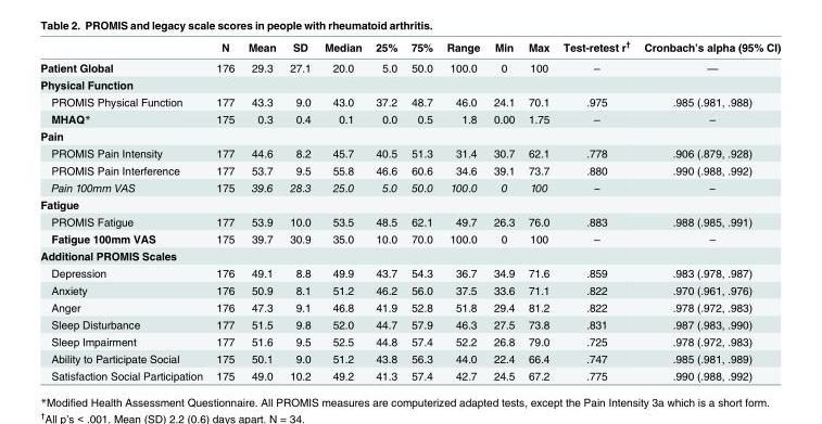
<table><thead><tr><td></td><td>N</td><td>Mean</td><td>SD</td><td>Median</td><td>25%</td><td>75%</td><td>Range</td><td>Min</td><td>Max</td><td>Test-retest r<sup>†</sup></td><td>Cronbach’s alpha (95% CI)</td></tr></thead><tbody><tr><td>Patient Global</td><td>176</td><td>29.3</td><td>27.1</td><td>20.0</td><td>5.0</td><td>50.0</td><td>100.0</td><td>0</td><td>100</td><td>–</td><td>—</td></tr><tr><td colspan="12">Physical Function</td></tr><tr><td>PROMIS Physical Function</td><td>177</td><td>43.3</td><td>9.0</td><td>43.0</td><td>37.2</td><td>48.7</td><td>46.0</td><td>24.1</td><td>70.1</td><td>.975</td><td>.985 (.981, .988)</td></tr><tr><td>MHAQ*</td><td>175</td><td>0.3</td><td>0.4</td><td>0.1</td><td>0.0</td><td>0.5</td><td>1.8</td><td>0.00</td><td>1.75</td><td>–</td><td>–</td></tr><tr><td colspan="12">Pain</td></tr><tr><td>PROMIS Pain Intensity</td><td>177</td><td>44.6</td><td>8.2</td><td>45.7</td><td>40.5</td><td>51.3</td><td>31.4</td><td>30.7</td><td>62.1</td><td>.778</td><td>.906 (.879, .928)</td></tr><tr><td>PROMIS Pain Interference</td><td>177</td><td>53.7</td><td>9.5</td><td>55.8</td><td>46.6</td><td>60.6</td><td>34.6</td><td>39.1</td><td>73.7</td><td>.880</td><td>.990 (.988, .992)</td></tr><tr><td>Pain 100mm VAS</td><td>175</td><td>39.6</td><td>28.3</td><td>25.0</td><td>5.0</td><td>50.0</td><td>100.0</td><td>0</td><td>100</td><td>–</td><td>–</td></tr><tr><td colspan="12">Fatigue</td></tr><tr><td>PROMIS Fatigue</td><td>177</td><td>53.9</td><td>10.0</td><td>53.5</td><td>48.5</td><td>62.1</td><td>49.7</td><td>26.3</td><td>76.0</td><td>.883</td><td>.988 (.985, .991)</td></tr><tr><td>Fatigue 100mm VAS</td><td>175</td><td>39.7</td><td>30.9</td><td>35.0</td><td>10.0</td><td>70.0</td><td>100.0</td><td>0</td><td>100</td><td>–</td><td>–</td></tr><tr><td colspan="12">Additional PROMIS Scales</td></tr><tr><td>Depression</td><td>176</td><td>49.1</td><td>8.8</td><td>49.9</td><td>43.7</td><td>54.3</td><td>36.7</td><td>34.9</td><td>71.6</td><td>.859</td><td>.983 (.978, .987)</td></tr><tr><td>Anxiety</td><td>176</td><td>50.9</td><td>8.1</td><td>51.2</td><td>46.2</td><td>56.0</td><td>37.5</td><td>33.6</td><td>71.1</td><td>.822</td><td>.970 (.961, .976)</td></tr><tr><td>Anger</td><td>176</td><td>47.3</td><td>9.1</td><td>46.8</td><td>41.9</td><td>52.8</td><td>51.8</td><td>29.4</td><td>81.2</td><td>.822</td><td>.978 (.972, .983)</td></tr><tr><td>Sleep Disturbance</td><td>177</td><td>51.5</td><td>9.8</td><td>52.0</td><td>44.7</td><td>57.9</td><td>46.3</td><td>27.5</td><td>73.8</td><td>.831</td><td>.987 (.983, .990)</td></tr><tr><td>Sleep Impairment</td><td>177</td><td>51.6</td><td>9.5</td><td>52.5</td><td>44.8</td><td>57.4</td><td>52.2</td><td>26.8</td><td>79.0</td><td>.725</td><td>.978 (.972, .983)</td></tr><tr><td>Ability to Participate Social</td><td>175</td><td>50.1</td><td>9.0</td><td>51.2</td><td>43.8</td><td>56.3</td><td>44.0</td><td>22.4</td><td>66.4</td><td>.747</td><td>.985 (.981, .989)</td></tr><tr><td>Satisfaction Social Participation</td><td>175</td><td>49.0</td><td>10.2</td><td>49.2</td><td>41.3</td><td>57.4</td><td>42.7</td><td>24.5</td><td>67.2</td><td>.775</td><td>.990 (.988, .992)</td></tr></tbody></table>